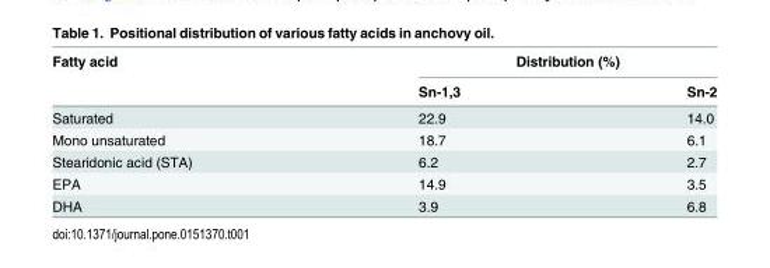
<table><thead><tr><td rowspan="2">Fatty acid</td><td colspan="2">Distribution (%)</td></tr><tr><td>Sn-1,3</td><td>Sn-2</td></tr></thead><tbody><tr><td>Saturated</td><td>22.9</td><td>14.0</td></tr><tr><td>Mono unsaturated</td><td>18.7</td><td>6.1</td></tr><tr><td>Stearidonic acid (STA)</td><td>6.2</td><td>2.7</td></tr><tr><td>EPA</td><td>14.9</td><td>3.5</td></tr><tr><td>DHA</td><td>3.9</td><td>6.8</td></tr></tbody></table>